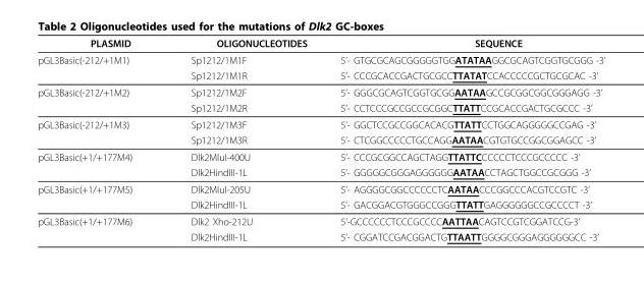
<table><thead><tr><td>PLASMID</td><td>OLIGONUCLEOTIDES</td><td>SEQUENCE</td></tr></thead><tbody><tr><td rowspan="2">pGL3Basic(-212/+1M1)</td><td>Sp1212/1M1F</td><td>5’- GTGCGCAGCGGGGGTGGATATAAGGCGCAGTCGGTGCGGG -3’</td></tr><tr><td>Sp1212/1M1R</td><td>5’- CCCGCACCGACTGCGCCTTATATCCACCCCCGCTGCGCAC -3’</td></tr><tr><td rowspan="2">pGL3Basic(-212/+1M2)</td><td>Sp1212/1M2F</td><td>5’- GGGCGCAGTCGGTGCGGAATAAGCCGCGGCGGCGGGAGG -3’</td></tr><tr><td>Sp1212/1M2R</td><td>5’- CCTCCCGCCGCCGCGGCTTATTCCGCACCGACTGCGCCC -3’</td></tr><tr><td rowspan="2">pGL3Basic(-212/+1M3)</td><td>Sp1212/1M3F</td><td>5’- GGCTCCGCCGGCACACGTTATTCCTGGCAGGGGGCCGAG -3’</td></tr><tr><td>Sp1212/1M3R</td><td>5’- CTCGGCCCCCTGCCAGGAATAACGTGTGCCGGCGGAGCC -3’</td></tr><tr><td rowspan="2">pGL3Basic(+1/+177M4)</td><td>Dlk2MluI-400U</td><td>5’- CCCGCGGCCAGCTAGGTTATTCCCCCCTCCCGCCCCC -3’</td></tr><tr><td>Dlk2HindIII-1L</td><td>5’- GGGGGCGGGAGGGGGGAATAACCTAGCTGGCCGCGGG -3’</td></tr><tr><td rowspan="2">pGL3Basic(+1/+177M5)</td><td>Dlk2MluI-205U</td><td>5’- AGGGGCGGCCCCCCTCAATAACCCGGCCCACGTCCGTC -3’</td></tr><tr><td>Dlk2HindIII-1L</td><td>5’- GACGGACGTGGGCCGGGTTATTGAGGGGGGCCGCCCCT -3’</td></tr><tr><td rowspan="2">pGL3Basic(+1/+177M6)</td><td>Dlk2 Xho-212U</td><td>5’-GCCCCCCTCCCGCCCCAATTAACAGTCCGTCGGATCCG-3’</td></tr><tr><td>Dlk2HindIII-1L</td><td>5’- CGGATCCGACGGACTGTTAATTGGGGCGGGAGGGGGGCC -3’</td></tr></tbody></table>